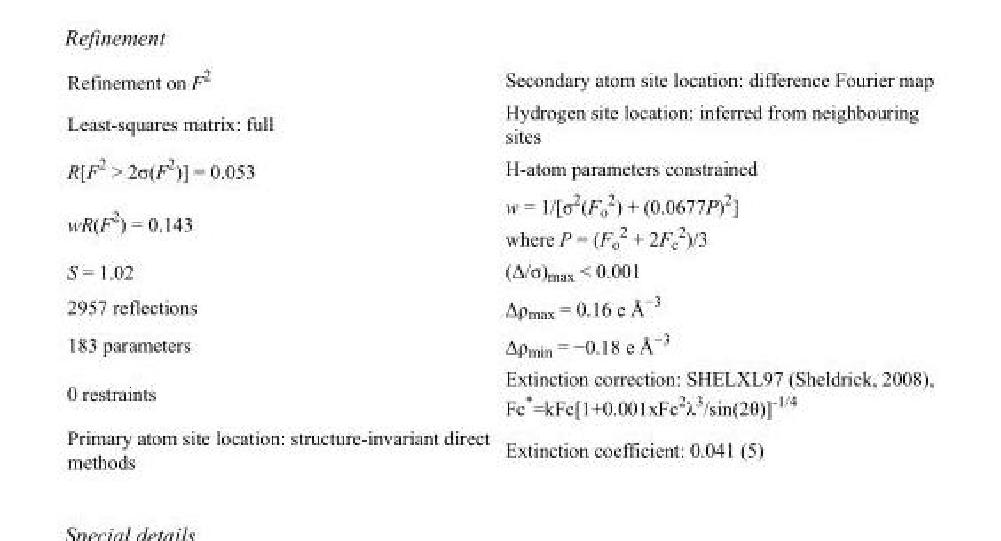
<table><tbody><tr><td>Refinement on F<sup>2</sup></td><td>Secondary atom site location: difference Fourier map</td></tr><tr><td>Least-squares matrix: full</td><td>Hydrogen site location: inferred from neighbouring sites</td></tr><tr><td>R[F<sup>2</sup> &gt; 2σ(F<sup>2</sup>)] = 0.053</td><td>H-atom parameters constrained</td></tr><tr><td>wR(F<sup>2</sup>) = 0.143</td><td>w = 1/[σ<sup>2</sup>(F<sub>o</sub> <sup>2</sup>) + (0.0677P)<sup>2</sup>] where P = (F<sub>o</sub> <sup>2</sup> + 2F<sub>c</sub> <sup>2</sup>)/3</td></tr><tr><td>S = 1.02</td><td>(Δ/σ)<sub>max</sub> &lt; 0.001</td></tr><tr><td>2957 reflections</td><td>Δρ<sub>max</sub> = 0.16 e Å<sup>−3</sup></td></tr><tr><td>183 parameters</td><td>Δρ<sub>min</sub> = −0.18 e Å<sup>−3</sup></td></tr><tr><td>0 restraints</td><td>Extinction correction: SHELXL97 (Sheldrick, 2008), Fc*=kFc[1+0.001xFc<sup>2</sup>λ<sup>3</sup>/sin(2θ)]<sup>-1/4</sup></td></tr><tr><td>Primary atom site location: structure-invariant direct methods</td><td>Extinction coefficient: 0.041 (5)</td></tr></tbody></table>